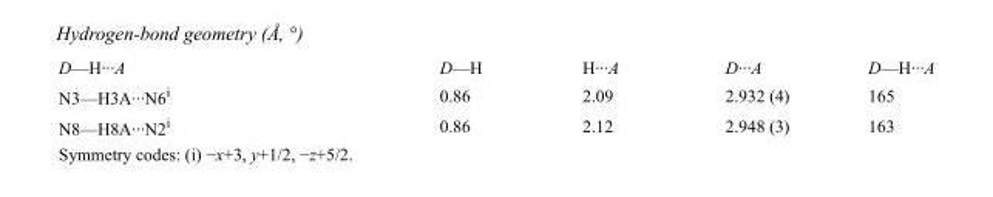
<table><tbody><tr><td>D—H···A</td><td>D—H</td><td>H···A</td><td>D···A</td><td>D—H···A</td></tr><tr><td>N3—H3A···N6<sup>i</sup></td><td>0.86</td><td>2.09</td><td>2.932 (4)</td><td>165</td></tr><tr><td>N8—H8A···N2<sup>i</sup></td><td>0.86</td><td>2.12</td><td>2.948 (3)</td><td>163</td></tr></tbody></table>